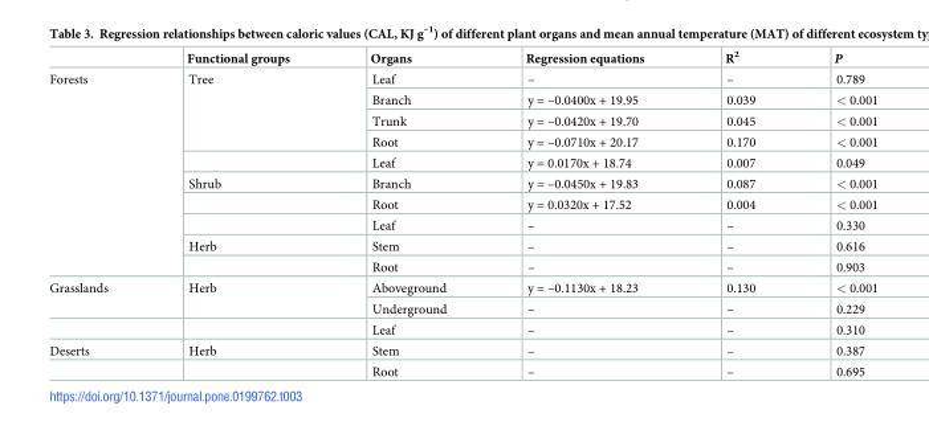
<table><thead><tr><td></td><td>Functional groups</td><td>Organs</td><td>Regression equations</td><td>R<sup>2</sup></td><td>P</td></tr></thead><tbody><tr><td rowspan="10">Forests</td><td rowspan="4">Tree</td><td>Leaf</td><td>–</td><td>–</td><td>0.789</td></tr><tr><td>Branch</td><td>y = –0.0400x + 19.95</td><td>0.039</td><td>&lt; 0.001</td></tr><tr><td>Trunk</td><td>y = –0.0420x + 19.70</td><td>0.045</td><td>&lt; 0.001</td></tr><tr><td>Root</td><td>y = –0.0710x + 20.17</td><td>0.170</td><td>&lt; 0.001</td></tr><tr><td></td><td>Leaf</td><td>y = 0.0170x + 18.74</td><td>0.007</td><td>0.049</td></tr><tr><td>Shrub</td><td>Branch</td><td>y = –0.0450x + 19.83</td><td>0.087</td><td>&lt; 0.001</td></tr><tr><td></td><td>Root</td><td>y = 0.0320x + 17.52</td><td>0.004</td><td>&lt; 0.001</td></tr><tr><td></td><td>Leaf</td><td>–</td><td>–</td><td>0.330</td></tr><tr><td>Herb</td><td>Stem</td><td>–</td><td>–</td><td>0.616</td></tr><tr><td></td><td>Root</td><td>–</td><td>–</td><td>0.903</td></tr><tr><td rowspan="3">Grasslands</td><td rowspan="2">Herb</td><td>Aboveground</td><td>y = –0.1130x + 18.23</td><td>0.130</td><td>&lt; 0.001</td></tr><tr><td>Underground</td><td>–</td><td>–</td><td>0.229</td></tr><tr><td></td><td>Leaf</td><td>–</td><td>–</td><td>0.310</td></tr><tr><td rowspan="2">Deserts</td><td>Herb</td><td>Stem</td><td>–</td><td>–</td><td>0.387</td></tr><tr><td></td><td>Root</td><td>–</td><td>–</td><td>0.695</td></tr></tbody></table>